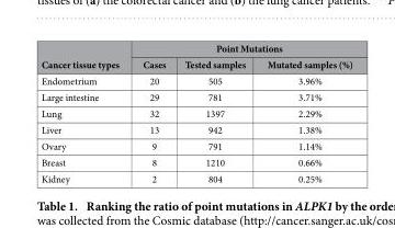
<table><thead><tr><td rowspan="2">Cancer tissue types</td><td colspan="3">Point Mutations</td></tr><tr><td>Cases</td><td>Tested samples</td><td>Mutated samples (%)</td></tr></thead><tbody><tr><td>Endometrium</td><td>20</td><td>505</td><td>3.96%</td></tr><tr><td>Large intestine</td><td>29</td><td>781</td><td>3.71%</td></tr><tr><td>Lung</td><td>32</td><td>1397</td><td>2.29%</td></tr><tr><td>Liver</td><td>13</td><td>942</td><td>1.38%</td></tr><tr><td>Ovary</td><td>9</td><td>791</td><td>1.14%</td></tr><tr><td>Breast</td><td>8</td><td>1210</td><td>0.66%</td></tr><tr><td>Kidney</td><td>2</td><td>804</td><td>0.25%</td></tr></tbody></table>